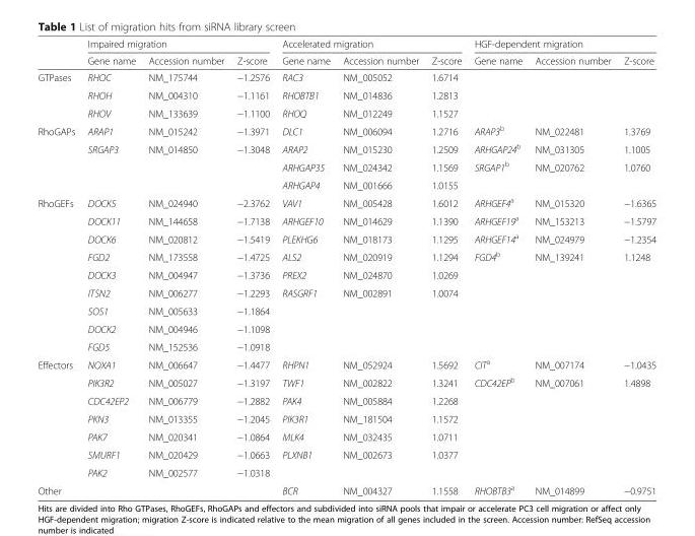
<table><thead><tr><td rowspan="2"></td><td colspan="3">Impaired migration</td><td colspan="3">Accelerated migration</td><td colspan="3">HGF-dependent migration</td></tr><tr><td>Gene name</td><td>Accession number</td><td>Z-score</td><td>Gene name</td><td>Accession number</td><td>Z-score</td><td>Gene name</td><td>Accession number</td><td>Z-score</td></tr></thead><tbody><tr><td rowspan="3">GTPases</td><td>RHOC</td><td>NM_175744</td><td>−1.2576</td><td>RAC3</td><td>NM_005052</td><td>1.6714</td><td></td><td></td><td></td></tr><tr><td>RHOH</td><td>NM_004310</td><td>−1.1161</td><td>RHOBTB1</td><td>NM_014836</td><td>1.2813</td><td></td><td></td><td></td></tr><tr><td>RHOV</td><td>NM_133639</td><td>−1.1100</td><td>RHOQ</td><td>NM_012249</td><td>1.1527</td><td></td><td></td><td></td></tr><tr><td rowspan="4">RhoGAPs</td><td>ARAP1</td><td>NM_015242</td><td>−1.3971</td><td>DLC1</td><td>NM_006094</td><td>1.2716</td><td>ARAP3<sup>b</sup></td><td>NM_022481</td><td>1.3769</td></tr><tr><td>SRGAP3</td><td>NM_014850</td><td>−1.3048</td><td>ARAP2</td><td>NM_015230</td><td>1.2509</td><td>ARHGAP24<sup>b</sup></td><td>NM_031305</td><td>1.1005</td></tr><tr><td></td><td></td><td></td><td>ARHGAP35</td><td>NM_024342</td><td>1.1569</td><td>SRGAP1<sup>b</sup></td><td>NM_020762</td><td>1.0760</td></tr><tr><td></td><td></td><td></td><td>ARHGAP4</td><td>NM_001666</td><td>1.0155</td><td></td><td></td><td></td></tr><tr><td rowspan="9">RhoGEFs</td><td>DOCK5</td><td>NM_024940</td><td>−2.3762</td><td>VAV1</td><td>NM_005428</td><td>1.6012</td><td>ARHGEF4<sup>a</sup></td><td>NM_015320</td><td>−1.6365</td></tr><tr><td>DOCK11</td><td>NM_144658</td><td>−1.7138</td><td>ARHGEF10</td><td>NM_014629</td><td>1.1390</td><td>ARHGEF19<sup>a</sup></td><td>NM_153213</td><td>−1.5797</td></tr><tr><td>DOCK6</td><td>NM_020812</td><td>−1.5419</td><td>PLEKHG6</td><td>NM_018173</td><td>1.1295</td><td>ARHGEF14<sup>a</sup></td><td>NM_024979</td><td>−1.2354</td></tr><tr><td>FGD2</td><td>NM_173558</td><td>−1.4725</td><td>ALS2</td><td>NM_020919</td><td>1.1294</td><td>FGD4<sup>b</sup></td><td>NM_139241</td><td>1.1248</td></tr><tr><td>DOCK3</td><td>NM_004947</td><td>−1.3736</td><td>PREX2</td><td>NM_024870</td><td>1.0269</td><td></td><td></td><td></td></tr><tr><td>ITSN2</td><td>NM_006277</td><td>−1.2293</td><td>RASGRF1</td><td>NM_002891</td><td>1.0074</td><td></td><td></td><td></td></tr><tr><td>SOS1</td><td>NM_005633</td><td>−1.1864</td><td></td><td></td><td></td><td></td><td></td><td></td></tr><tr><td>DOCK2</td><td>NM_004946</td><td>−1.1098</td><td></td><td></td><td></td><td></td><td></td><td></td></tr><tr><td>FGD5</td><td>NM_152536</td><td>−1.0918</td><td></td><td></td><td></td><td></td><td></td><td></td></tr><tr><td rowspan="7">Effectors</td><td>NOXA1</td><td>NM_006647</td><td>−1.4477</td><td>RHPN1</td><td>NM_052924</td><td>1.5692</td><td>CIT<sup>a</sup></td><td>NM_007174</td><td>−1.0435</td></tr><tr><td>PIK3R2</td><td>NM_005027</td><td>−1.3197</td><td>TWF1</td><td>NM_002822</td><td>1.3241</td><td>CDC42EP<sup>b</sup></td><td>NM_007061</td><td>1.4898</td></tr><tr><td>CDC42EP2</td><td>NM_006779</td><td>−1.2882</td><td>PAK4</td><td>NM_005884</td><td>1.2268</td><td></td><td></td><td></td></tr><tr><td>PKN3</td><td>NM_013355</td><td>−1.2045</td><td>PIK3R1</td><td>NM_181504</td><td>1.1572</td><td></td><td></td><td></td></tr><tr><td>PAK7</td><td>NM_020341</td><td>−1.0864</td><td>MLK4</td><td>NM_032435</td><td>1.0711</td><td></td><td></td><td></td></tr><tr><td>SMURF1</td><td>NM_020429</td><td>−1.0663</td><td>PLXNB1</td><td>NM_002673</td><td>1.0377</td><td></td><td></td><td></td></tr><tr><td>PAK2</td><td>NM_002577</td><td>−1.0318</td><td></td><td></td><td></td><td></td><td></td><td></td></tr><tr><td>Other</td><td></td><td></td><td></td><td>BCR</td><td>NM_004327</td><td>1.1558</td><td>RHOBTB3<sup>a</sup></td><td>NM_014899</td><td>−0.9751</td></tr></tbody></table>